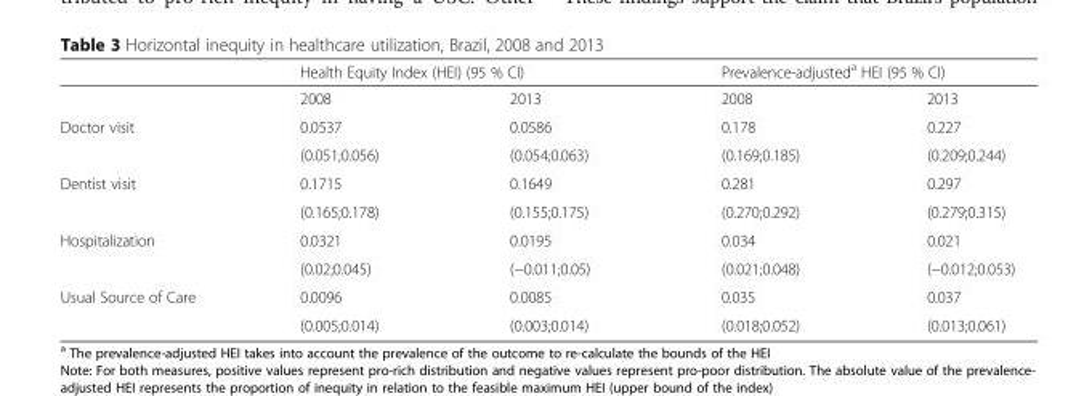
<table><thead><tr><td rowspan="2"></td><td colspan="2">Health Equity Index (HEI) (95 % CI)</td><td colspan="2">Prevalence-adjusted<sup>a</sup> HEI (95 % CI)</td></tr><tr><td>2008</td><td>2013</td><td>2008</td><td>2013</td></tr></thead><tbody><tr><td rowspan="2">Doctor visit</td><td>0.0537</td><td>0.0586</td><td>0.178</td><td>0.227</td></tr><tr><td>(0.051;0.056)</td><td>(0.054;0.063)</td><td>(0.169;0.185)</td><td>(0.209;0.244)</td></tr><tr><td rowspan="2">Dentist visit</td><td>0.1715</td><td>0.1649</td><td>0.281</td><td>0.297</td></tr><tr><td>(0.165;0.178)</td><td>(0.155;0.175)</td><td>(0.270;0.292)</td><td>(0.279;0.315)</td></tr><tr><td rowspan="2">Hospitalization</td><td>0.0321</td><td>0.0195</td><td>0.034</td><td>0.021</td></tr><tr><td>(0.02;0.045)</td><td>(−0.011;0.05)</td><td>(0.021;0.048)</td><td>(−0.012;0.053)</td></tr><tr><td rowspan="2">Usual Source of Care</td><td>0.0096</td><td>0.0085</td><td>0.035</td><td>0.037</td></tr><tr><td>(0.005;0.014)</td><td>(0.003;0.014)</td><td>(0.018;0.052)</td><td>(0.013;0.061)</td></tr></tbody></table>